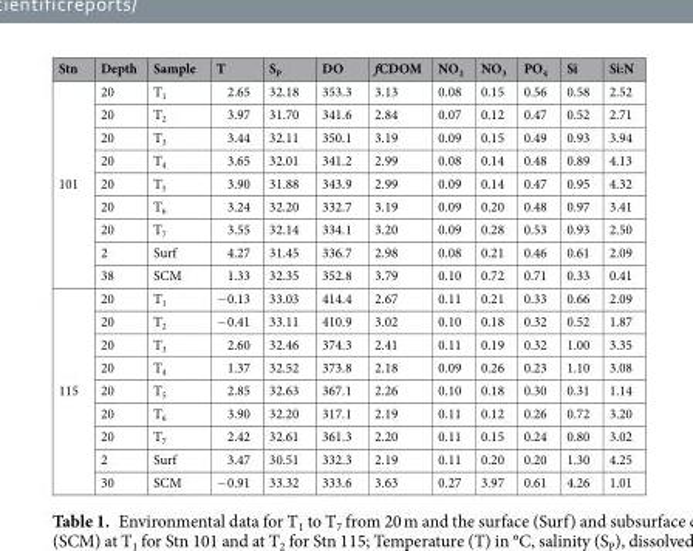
<table><thead><tr><td>Stn</td><td>Depth</td><td>Sample</td><td>T</td><td>S<sub>P</sub></td><td>DO</td><td>fCDOM</td><td>NO<sub>2</sub></td><td>NO<sub>3</sub></td><td>PO<sub>4</sub></td><td>Si</td><td>Si:N</td></tr></thead><tbody><tr><td rowspan="9">101</td><td>20</td><td>T<sub>1</sub></td><td>2.65</td><td>32.18</td><td>353.3</td><td>3.13</td><td>0.08</td><td>0.15</td><td>0.56</td><td>0.58</td><td>2.52</td></tr><tr><td>20</td><td>T<sub>2</sub></td><td>3.97</td><td>31.70</td><td>341.6</td><td>2.84</td><td>0.07</td><td>0.12</td><td>0.47</td><td>0.52</td><td>2.71</td></tr><tr><td>20</td><td>T<sub>3</sub></td><td>3.44</td><td>32.11</td><td>350.1</td><td>3.19</td><td>0.09</td><td>0.15</td><td>0.49</td><td>0.93</td><td>3.94</td></tr><tr><td>20</td><td>T<sub>4</sub></td><td>3.65</td><td>32.01</td><td>341.2</td><td>2.99</td><td>0.08</td><td>0.14</td><td>0.48</td><td>0.89</td><td>4.13</td></tr><tr><td>20</td><td>T<sub>5</sub></td><td>3.90</td><td>31.88</td><td>343.9</td><td>2.99</td><td>0.09</td><td>0.14</td><td>0.47</td><td>0.95</td><td>4.32</td></tr><tr><td>20</td><td>T<sub>6</sub></td><td>3.24</td><td>32.20</td><td>332.7</td><td>3.19</td><td>0.09</td><td>0.20</td><td>0.48</td><td>0.97</td><td>3.41</td></tr><tr><td>20</td><td>T<sub>7</sub></td><td>3.55</td><td>32.14</td><td>334.1</td><td>3.20</td><td>0.09</td><td>0.28</td><td>0.53</td><td>0.93</td><td>2.50</td></tr><tr><td>2</td><td>Surf</td><td>4.27</td><td>31.45</td><td>336.7</td><td>2.98</td><td>0.08</td><td>0.21</td><td>0.46</td><td>0.61</td><td>2.09</td></tr><tr><td>38</td><td>SCM</td><td>1.33</td><td>32.35</td><td>352.8</td><td>3.79</td><td>0.10</td><td>0.72</td><td>0.71</td><td>0.33</td><td>0.41</td></tr><tr><td rowspan="9">115</td><td>20</td><td>T<sub>1</sub></td><td>−0.13</td><td>33.03</td><td>414.4</td><td>2.67</td><td>0.11</td><td>0.21</td><td>0.33</td><td>0.66</td><td>2.09</td></tr><tr><td>20</td><td>T<sub>2</sub></td><td>−0.41</td><td>33.11</td><td>410.9</td><td>3.02</td><td>0.10</td><td>0.18</td><td>0.32</td><td>0.52</td><td>1.87</td></tr><tr><td>20</td><td>T<sub>3</sub></td><td>2.60</td><td>32.46</td><td>374.3</td><td>2.41</td><td>0.11</td><td>0.19</td><td>0.32</td><td>1.00</td><td>3.35</td></tr><tr><td>20</td><td>T<sub>4</sub></td><td>1.37</td><td>32.52</td><td>373.8</td><td>2.18</td><td>0.09</td><td>0.26</td><td>0.23</td><td>1.10</td><td>3.08</td></tr><tr><td>20</td><td>T<sub>5</sub></td><td>2.85</td><td>32.63</td><td>367.1</td><td>2.26</td><td>0.10</td><td>0.18</td><td>0.30</td><td>0.31</td><td>1.14</td></tr><tr><td>20</td><td>T<sub>6</sub></td><td>3.90</td><td>32.20</td><td>317.1</td><td>2.19</td><td>0.11</td><td>0.12</td><td>0.26</td><td>0.72</td><td>3.20</td></tr><tr><td>20</td><td>T<sub>7</sub></td><td>2.42</td><td>32.61</td><td>361.3</td><td>2.20</td><td>0.11</td><td>0.15</td><td>0.24</td><td>0.80</td><td>3.02</td></tr><tr><td>2</td><td>Surf</td><td>3.47</td><td>30.51</td><td>332.3</td><td>2.19</td><td>0.11</td><td>0.20</td><td>0.20</td><td>1.30</td><td>4.25</td></tr><tr><td>30</td><td>SCM</td><td>−0.91</td><td>33.32</td><td>333.6</td><td>3.63</td><td>0.27</td><td>3.97</td><td>0.61</td><td>4.26</td><td>1.01</td></tr></tbody></table>